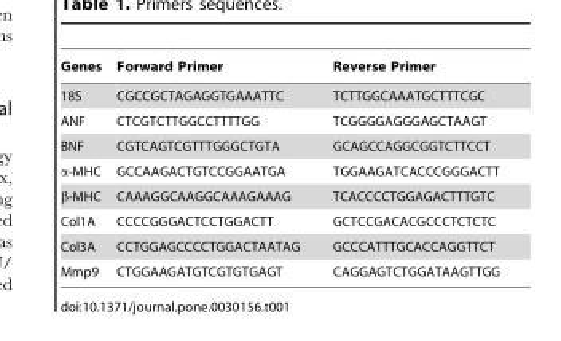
<table><thead><tr><td>Genes</td><td>Forward Primer</td><td>Reverse Primer</td></tr></thead><tbody><tr><td>18S</td><td>CGCCGCTAGAGGTGAAATTC</td><td>TCTTGGCAAATGCTTTCGC</td></tr><tr><td>ANF</td><td>CTCGTCTTGGCCTTTTGG</td><td>TCGGGGAGGGAGCTAAGT</td></tr><tr><td>BNF</td><td>CGTCAGTCGTTTGGGCTGTA</td><td>GCAGCCAGGCGGTCTTCCT</td></tr><tr><td>α-MHC</td><td>GCCAAGACTGTCCGGAATGA</td><td>TGGAAGATCACCCGGGACTT</td></tr><tr><td>β-MHC</td><td>CAAAGGCAAGGCAAAGAAAG</td><td>TCACCCCTGGAGACTTTGTC</td></tr><tr><td>Col1A</td><td>CCCCGGGACTCCTGGACTT</td><td>GCTCCGACACGCCCTCTCTC</td></tr><tr><td>Col3A</td><td>CCTGGAGCCCCTGGACTAATAG</td><td>GCCCATTTGCACCAGGTTCT</td></tr><tr><td>Mmp9</td><td>CTGGAAGATGTCGTGTGAGT</td><td>CAGGAGTCTGGATAAGTTGG</td></tr></tbody></table>